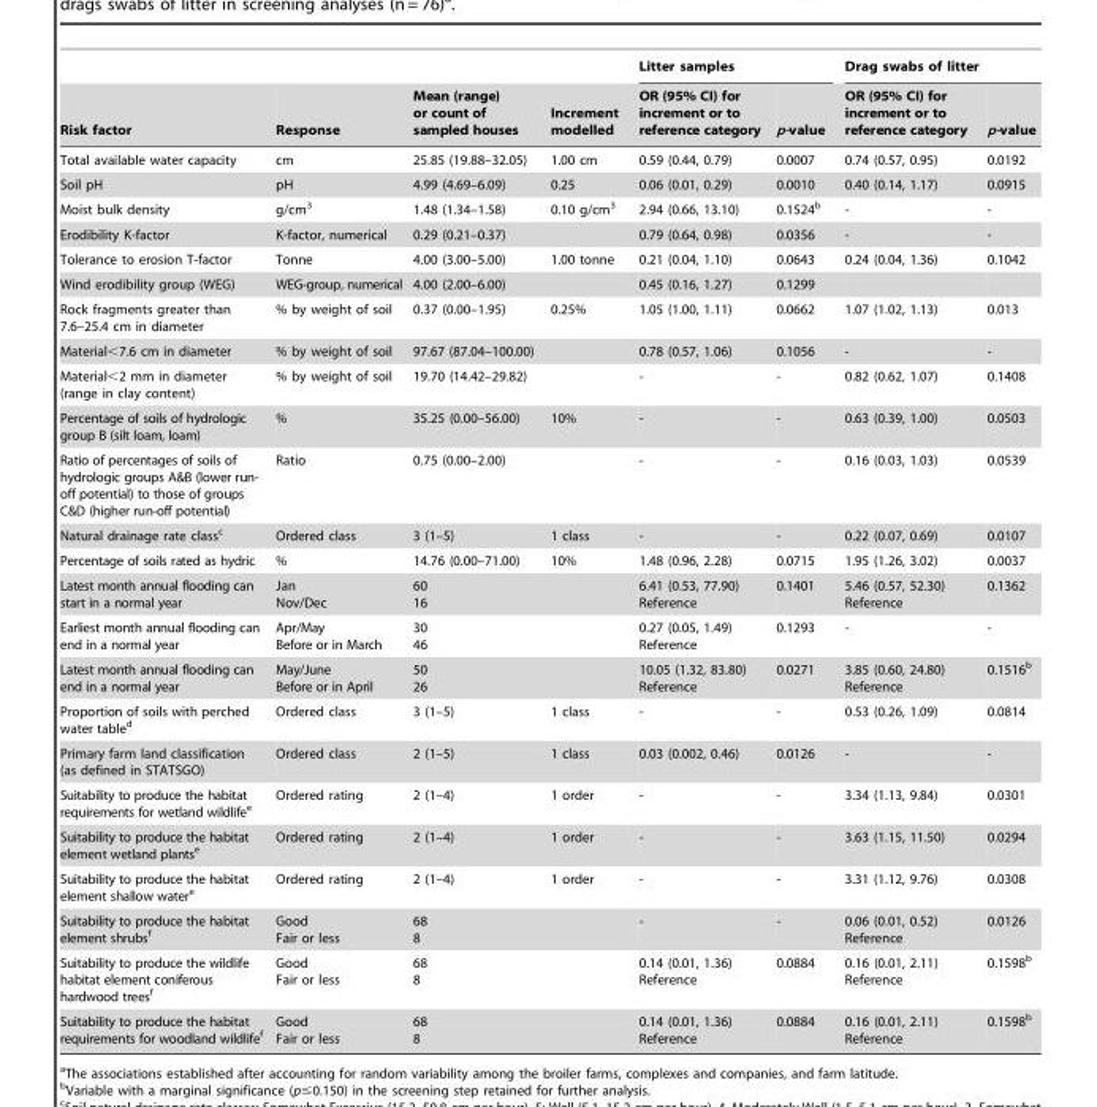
<table><thead><tr><td rowspan="2">Risk factor</td><td rowspan="2">Response</td><td rowspan="2">Mean (range) or count of sampled houses</td><td rowspan="2">Increment modelled</td><td colspan="2">Litter samples</td><td colspan="2">Drag swabs of litter</td></tr><tr><td>OR (95% CI) for increment or to reference category</td><td>p-value</td><td>OR (95% CI) for increment or to reference category</td><td>p-value</td></tr></thead><tbody><tr><td>Total available water capacity</td><td>cm</td><td>25.85 (19.88–32.05)</td><td>1.00 cm</td><td>0.59 (0.44, 0.79)</td><td>0.0007</td><td>0.74 (0.57, 0.95)</td><td>0.0192</td></tr><tr><td>Soil pH</td><td>pH</td><td>4.99 (4.69–6.09)</td><td>0.25</td><td>0.06 (0.01, 0.29)</td><td>0.0010</td><td>0.40 (0.14, 1.17)</td><td>0.0915</td></tr><tr><td>Moist bulk density</td><td>g/cm<sup>3</sup></td><td>1.48 (1.34–1.58)</td><td>0.10 g/cm<sup>3</sup></td><td>2.94 (0.66, 13.10)</td><td>0.1524<sup>b</sup></td><td>-</td><td>-</td></tr><tr><td>Erodibility K-factor</td><td>K-factor, numerical</td><td>0.29 (0.21–0.37)</td><td></td><td>0.79 (0.64, 0.98)</td><td>0.0356</td><td>-</td><td>-</td></tr><tr><td>Tolerance to erosion T-factor</td><td>Tonne</td><td>4.00 (3.00–5.00)</td><td>1.00 tonne</td><td>0.21 (0.04, 1.10)</td><td>0.0643</td><td>0.24 (0.04, 1.36)</td><td>0.1042</td></tr><tr><td>Wind erodibility group (WEG)</td><td>WEG-group, numerical</td><td>4.00 (2.00–6.00)</td><td></td><td>0.45 (0.16, 1.27)</td><td>0.1299</td><td></td><td></td></tr><tr><td>Rock fragments greater than 7.6–25.4 cm in diameter</td><td>% by weight of soil</td><td>0.37 (0.00–1.95)</td><td>0.25%</td><td>1.05 (1.00, 1.11)</td><td>0.0662</td><td>1.07 (1.02, 1.13)</td><td>0.013</td></tr><tr><td>Material&lt;7.6 cm in diameter</td><td>% by weight of soil</td><td>97.67 (87.04–100.00)</td><td></td><td>0.78 (0.57, 1.06)</td><td>0.1056</td><td>-</td><td>-</td></tr><tr><td>Material&lt;2 mm in diameter (range in clay content)</td><td>% by weight of soil</td><td>19.70 (14.42–29.82)</td><td></td><td>-</td><td>-</td><td>0.82 (0.62, 1.07)</td><td>0.1408</td></tr><tr><td>Percentage of soils of hydrologic group B (silt loam, loam)</td><td>%</td><td>35.25 (0.00–56.00)</td><td>10%</td><td>-</td><td>-</td><td>0.63 (0.39, 1.00)</td><td>0.0503</td></tr><tr><td>Ratio of percentages of soils of hydrologic groups A&amp;B (lower run- off potential) to those of groups C&amp;D (higher run-off potential)</td><td>Ratio</td><td>0.75 (0.00–2.00)</td><td></td><td>-</td><td>-</td><td>0.16 (0.03, 1.03)</td><td>0.0539</td></tr><tr><td>Natural drainage rate class<sup>c</sup></td><td>Ordered class</td><td>3 (1–5)</td><td>1 class</td><td>-</td><td>-</td><td>0.22 (0.07, 0.69)</td><td>0.0107</td></tr><tr><td>Percentage of soils rated as hydric</td><td>%</td><td>14.76 (0.00–71.00)</td><td>10%</td><td>1.48 (0.96, 2.28)</td><td>0.0715</td><td>1.95 (1.26, 3.02)</td><td>0.0037</td></tr><tr><td>Latest month annual flooding can start in a normal year</td><td>Jan Nov/Dec</td><td>60 16</td><td></td><td>6.41 (0.53, 77.90) Reference</td><td>0.1401</td><td>5.46 (0.57, 52.30) Reference</td><td>0.1362</td></tr><tr><td>Earliest month annual flooding can end in a normal year</td><td>Apr/May Before or in March</td><td>30 46</td><td></td><td>0.27 (0.05, 1.49) Reference</td><td>0.1293</td><td>-</td><td>-</td></tr><tr><td>Latest month annual flooding can end in a normal year</td><td>May/June Before or in April</td><td>50 26</td><td></td><td>10.05 (1.32, 83.80) Reference</td><td>0.0271</td><td>3.85 (0.60, 24.80) Reference</td><td>0.1516<sup>b</sup></td></tr><tr><td>Proportion of soils with perched water table<sup>d</sup></td><td>Ordered class</td><td>3 (1–5)</td><td>1 class</td><td>-</td><td>-</td><td>0.53 (0.26, 1.09)</td><td>0.0814</td></tr><tr><td>Primary farm land classification (as defined in STATSGO)</td><td>Ordered class</td><td>2 (1–5)</td><td>1 class</td><td>0.03 (0.002, 0.46)</td><td>0.0126</td><td>-</td><td>-</td></tr><tr><td>Suitability to produce the habitat requirements for wetland wildlife<sup>e</sup></td><td>Ordered rating</td><td>2 (1–4)</td><td>1 order</td><td>-</td><td>-</td><td>3.34 (1.13, 9.84)</td><td>0.0301</td></tr><tr><td>Suitability to produce the habitat element wetland plants<sup>e</sup></td><td>Ordered rating</td><td>2 (1–4)</td><td>1 order</td><td>-</td><td>-</td><td>3.63 (1.15, 11.50)</td><td>0.0294</td></tr><tr><td>Suitability to produce the habitat element shallow water<sup>e</sup></td><td>Ordered rating</td><td>2 (1–4)</td><td>1 order</td><td>-</td><td>-</td><td>3.31 (1.12, 9.76)</td><td>0.0308</td></tr><tr><td>Suitability to produce the habitat element shrubs<sup>f</sup></td><td>Good Fair or less</td><td>68 8</td><td></td><td>-</td><td>-</td><td>0.06 (0.01, 0.52) Reference</td><td>0.0126</td></tr><tr><td>Suitability to produce the wildlife habitat element coniferous hardwood trees<sup>f</sup></td><td>Good Fair or less</td><td>68 8</td><td></td><td>0.14 (0.01, 1.36) Reference</td><td>0.0884</td><td>0.16 (0.01, 2.11) Reference</td><td>0.1598<sup>b</sup></td></tr><tr><td>Suitability to produce the habitat requirements for woodland wildlife<sup>f</sup></td><td>Good Fair or less</td><td>68 8</td><td></td><td>0.14 (0.01, 1.36) Reference</td><td>0.0884</td><td>0.16 (0.01, 2.11) Reference</td><td>0.1598<sup>b</sup></td></tr></tbody></table>